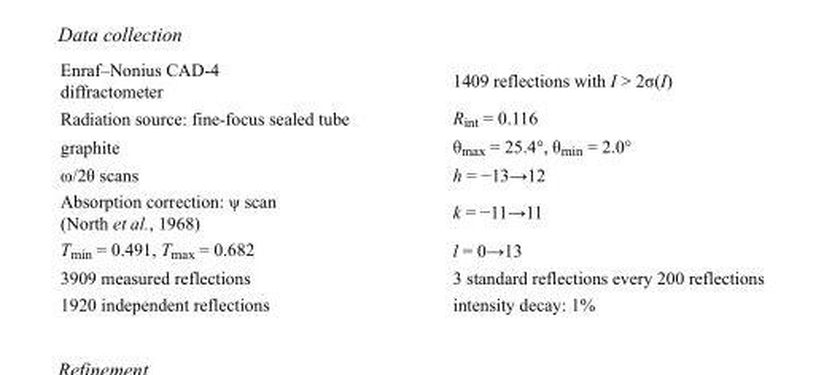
<table><tbody><tr><td>Enraf–Nonius CAD-4 diffractometer</td><td>1409 reflections with I &gt; 2σ(I)</td></tr><tr><td>Radiation source: fine-focus sealed tube</td><td>R<sub>int</sub> = 0.116</td></tr><tr><td>graphite</td><td>θ<sub>max</sub> = 25.4°, θ<sub>min</sub> = 2.0°</td></tr><tr><td>ω/2θ scans</td><td>h = −13→12</td></tr><tr><td>Absorption correction: ψ scan (North et al., 1968)</td><td>k = −11→11</td></tr><tr><td>T<sub>min</sub> = 0.491, T<sub>max</sub> = 0.682</td><td>l = 0→13</td></tr><tr><td>3909 measured reflections</td><td>3 standard reflections every 200 reflections</td></tr><tr><td>1920 independent reflections</td><td>intensity decay: 1%</td></tr></tbody></table>